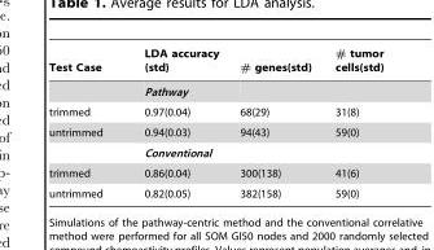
<table><thead><tr><td>Test Case</td><td>LDA accuracy (std)</td><td># genes(std)</td><td># tumor cells(std)</td></tr></thead><tbody><tr><td></td><td>Pathway</td><td></td><td></td></tr><tr><td>trimmed</td><td>0.97(0.04)</td><td>68(29)</td><td>31(8)</td></tr><tr><td rowspan="2">untrimmed</td><td>0.94(0.03)</td><td>94(43)</td><td>59(0)</td></tr><tr><td>Conventional</td><td></td><td></td></tr><tr><td>trimmed</td><td>0.86(0.04)</td><td>300(138)</td><td>41(6)</td></tr><tr><td>untrimmed</td><td>0.82(0.05)</td><td>382(158)</td><td>59(0)</td></tr></tbody></table>